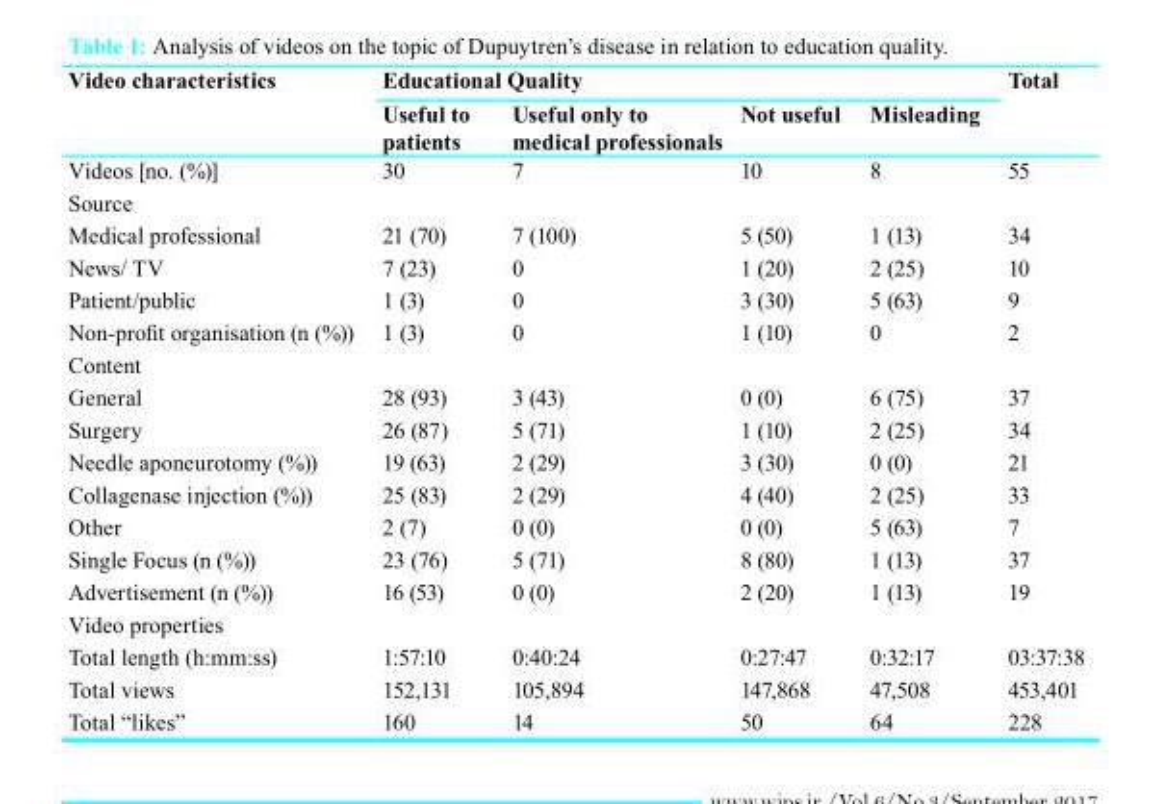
<table><thead><tr><td rowspan="2">Video characteristics</td><td colspan="4">Educational Quality</td><td rowspan="2">Total</td></tr><tr><td>Useful to patients</td><td>Useful only to medical professionals</td><td>Not useful</td><td>Misleading</td></tr></thead><tbody><tr><td>Videos [no. (%)]</td><td>30</td><td>7</td><td>10</td><td>8</td><td>55</td></tr><tr><td colspan="6">Source</td></tr><tr><td>Medical professional</td><td>21 (70)</td><td>7 (100)</td><td>5 (50)</td><td>1 (13)</td><td>34</td></tr><tr><td>News/ TV</td><td>7 (23)</td><td>0</td><td>1 (20)</td><td>2 (25)</td><td>10</td></tr><tr><td>Patient/public</td><td>1 (3)</td><td>0</td><td>3 (30)</td><td>5 (63)</td><td>9</td></tr><tr><td>Non-profit organisation (n (%))</td><td>1 (3)</td><td>0</td><td>1 (10)</td><td>0</td><td>2</td></tr><tr><td colspan="6">Content</td></tr><tr><td>General</td><td>28 (93)</td><td>3 (43)</td><td>0 (0)</td><td>6 (75)</td><td>37</td></tr><tr><td>Surgery</td><td>26 (87)</td><td>5 (71)</td><td>1 (10)</td><td>2 (25)</td><td>34</td></tr><tr><td>Needle aponeurotomy (%))</td><td>19 (63)</td><td>2 (29)</td><td>3 (30)</td><td>0 (0)</td><td>21</td></tr><tr><td>Collagenase injection (%))</td><td>25 (83)</td><td>2 (29)</td><td>4 (40)</td><td>2 (25)</td><td>33</td></tr><tr><td>Other</td><td>2 (7)</td><td>0 (0)</td><td>0 (0)</td><td>5 (63)</td><td>7</td></tr><tr><td>Single Focus (n (%))</td><td>23 (76)</td><td>5 (71)</td><td>8 (80)</td><td>1 (13)</td><td>37</td></tr><tr><td>Advertisement (n (%))</td><td>16 (53)</td><td>0 (0)</td><td>2 (20)</td><td>1 (13)</td><td>19</td></tr><tr><td colspan="6">Video properties</td></tr><tr><td>Total length (h:mm:ss)</td><td>1:57:10</td><td>0:40:24</td><td>0:27:47</td><td>0:32:17</td><td>03:37:38</td></tr><tr><td>Total views</td><td>152,131</td><td>105,894</td><td>147,868</td><td>47,508</td><td>453,401</td></tr><tr><td>Total “likes”</td><td>160</td><td>14</td><td>50</td><td>64</td><td>228</td></tr></tbody></table>